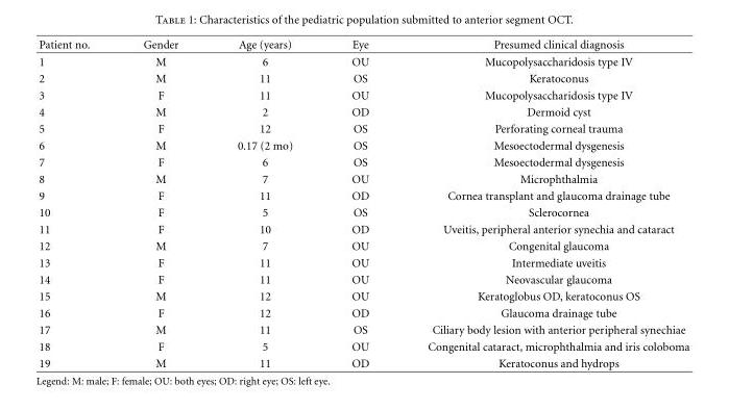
<table><thead><tr><td>Patient no.</td><td>Gender</td><td>Age (years)</td><td>Eye</td><td>Presumed clinical diagnosis</td></tr></thead><tbody><tr><td>1</td><td>M</td><td>6</td><td>OU</td><td>Mucopolysaccharidosis type IV</td></tr><tr><td>2</td><td>M</td><td>11</td><td>OS</td><td>Keratoconus</td></tr><tr><td>3</td><td>F</td><td>11</td><td>OU</td><td>Mucopolysaccharidosis type IV</td></tr><tr><td>4</td><td>M</td><td>2</td><td>OD</td><td>Dermoid cyst</td></tr><tr><td>5</td><td>F</td><td>12</td><td>OS</td><td>Perforating corneal trauma</td></tr><tr><td>6</td><td>M</td><td>0.17 (2 mo)</td><td>OS</td><td>Mesoectodermal dysgenesis</td></tr><tr><td>7</td><td>F</td><td>6</td><td>OS</td><td>Mesoectodermal dysgenesis</td></tr><tr><td>8</td><td>M</td><td>7</td><td>OU</td><td>Microphthalmia</td></tr><tr><td>9</td><td>F</td><td>11</td><td>OD</td><td>Cornea transplant and glaucoma drainage tube</td></tr><tr><td>10</td><td>F</td><td>5</td><td>OS</td><td>Sclerocornea</td></tr><tr><td>11</td><td>F</td><td>10</td><td>OD</td><td>Uveitis, peripheral anterior synechia and cataract</td></tr><tr><td>12</td><td>M</td><td>7</td><td>OU</td><td>Congenital glaucoma</td></tr><tr><td>13</td><td>F</td><td>11</td><td>OU</td><td>Intermediate uveitis</td></tr><tr><td>14</td><td>F</td><td>11</td><td>OU</td><td>Neovascular glaucoma</td></tr><tr><td>15</td><td>M</td><td>12</td><td>OU</td><td>Keratoglobus OD, keratoconus OS</td></tr><tr><td>16</td><td>F</td><td>12</td><td>OD</td><td>Glaucoma drainage tube</td></tr><tr><td>17</td><td>M</td><td>11</td><td>OS</td><td>Ciliary body lesion with anterior peripheral synechiae</td></tr><tr><td>18</td><td>F</td><td>5</td><td>OU</td><td>Congenital cataract, microphthalmia and iris coloboma</td></tr><tr><td>19</td><td>M</td><td>11</td><td>OD</td><td>Keratoconus and hydrops</td></tr></tbody></table>